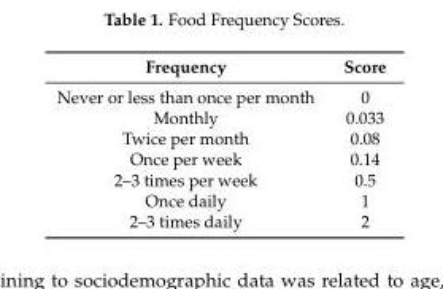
<table><thead><tr><td>Frequency</td><td>Score</td></tr></thead><tbody><tr><td>Never or less than once per month</td><td>0</td></tr><tr><td>Monthly</td><td>0.033</td></tr><tr><td>Twice per month</td><td>0.08</td></tr><tr><td>Once per week</td><td>0.14</td></tr><tr><td>2–3 times per week</td><td>0.5</td></tr><tr><td>Once daily</td><td>1</td></tr><tr><td>2–3 times daily</td><td>2</td></tr></tbody></table>